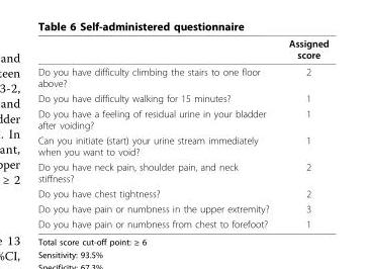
<table><thead><tr><td></td><td>Assigned score</td></tr></thead><tbody><tr><td>Do you have difficulty climbing the stairs to one floor above?</td><td>2</td></tr><tr><td>Do you have difficulty walking for 15 minutes?</td><td>1</td></tr><tr><td>Do you have a feeling of residual urine in your bladder after voiding?</td><td>1</td></tr><tr><td>Can you initiate (start) your urine stream immediately when you want to void?</td><td>1</td></tr><tr><td>Do you have neck pain, shoulder pain, and neck stiffness?</td><td>2</td></tr><tr><td>Do you have chest tightness?</td><td>2</td></tr><tr><td>Do you have pain or numbness in the upper extremity?</td><td>3</td></tr><tr><td>Do you have pain or numbness from chest to forefoot?</td><td>1</td></tr></tbody></table>